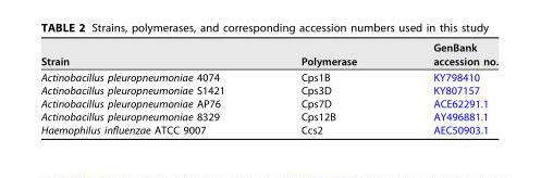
<table><thead><tr><td>Strain</td><td>Polymerase</td><td>GenBank accession no.</td></tr></thead><tbody><tr><td>Actinobacillus pleuropneumoniae 4074</td><td>Cps1B</td><td>KY798410</td></tr><tr><td>Actinobacillus pleuropneumoniae S1421</td><td>Cps3D</td><td>KY807157</td></tr><tr><td>Actinobacillus pleuropneumoniae AP76</td><td>Cps7D</td><td>ACE62291.1</td></tr><tr><td>Actinobacillus pleuropneumoniae 8329</td><td>Cps12B</td><td>AY496881.1</td></tr><tr><td>Haemophilus influenzae ATCC 9007</td><td>Ccs2</td><td>AEC50903.1</td></tr></tbody></table>